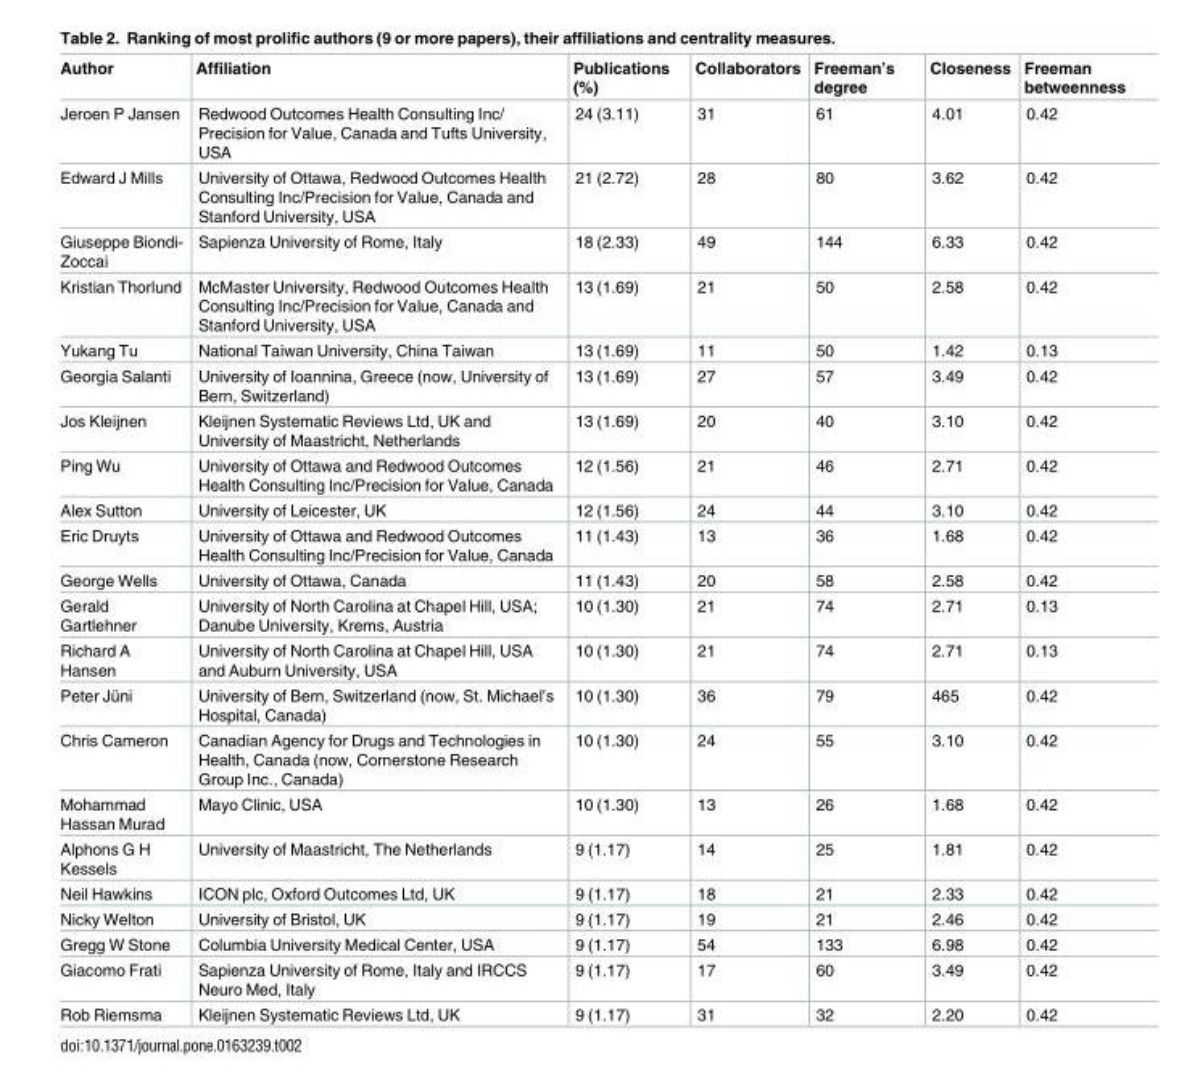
<table><thead><tr><td>Author</td><td>Affiliation</td><td>Publications (%)</td><td>Collaborators</td><td>Freeman’s degree</td><td>Closeness</td><td>Freeman betweenness</td></tr></thead><tbody><tr><td>Jeroen P Jansen</td><td>Redwood Outcomes Health Consulting Inc/ Precision for Value, Canada and Tufts University, USA</td><td>24 (3.11)</td><td>31</td><td>61</td><td>4.01</td><td>0.42</td></tr><tr><td>Edward J Mills</td><td>University of Ottawa, Redwood Outcomes Health Consulting Inc/Precision for Value, Canada and Stanford University, USA</td><td>21 (2.72)</td><td>28</td><td>80</td><td>3.62</td><td>0.42</td></tr><tr><td>Giuseppe Biondi- Zoccai</td><td>Sapienza University of Rome, Italy</td><td>18 (2.33)</td><td>49</td><td>144</td><td>6.33</td><td>0.42</td></tr><tr><td>Kristian Thorlund</td><td>McMaster University, Redwood Outcomes Health Consulting Inc/Precision for Value, Canada and Stanford University, USA</td><td>13 (1.69)</td><td>21</td><td>50</td><td>2.58</td><td>0.42</td></tr><tr><td>Yukang Tu</td><td>National Taiwan University, China Taiwan</td><td>13 (1.69)</td><td>11</td><td>50</td><td>1.42</td><td>0.13</td></tr><tr><td>Georgia Salanti</td><td>University of Ioannina, Greece (now, University of Bern, Switzerland)</td><td>13 (1.69)</td><td>27</td><td>57</td><td>3.49</td><td>0.42</td></tr><tr><td>Jos Kleijnen</td><td>Kleijnen Systematic Reviews Ltd, UK and University of Maastricht, Netherlands</td><td>13 (1.69)</td><td>20</td><td>40</td><td>3.10</td><td>0.42</td></tr><tr><td>Ping Wu</td><td>University of Ottawa and Redwood Outcomes Health Consulting Inc/Precision for Value, Canada</td><td>12 (1.56)</td><td>21</td><td>46</td><td>2.71</td><td>0.42</td></tr><tr><td>Alex Sutton</td><td>University of Leicester, UK</td><td>12 (1.56)</td><td>24</td><td>44</td><td>3.10</td><td>0.42</td></tr><tr><td>Eric Druyts</td><td>University of Ottawa and Redwood Outcomes Health Consulting Inc/Precision for Value, Canada</td><td>11 (1.43)</td><td>13</td><td>36</td><td>1.68</td><td>0.42</td></tr><tr><td>George Wells</td><td>University of Ottawa, Canada</td><td>11 (1.43)</td><td>20</td><td>58</td><td>2.58</td><td>0.42</td></tr><tr><td>Gerald Gartlehner</td><td>University of North Carolina at Chapel Hill, USA; Danube University, Krems, Austria</td><td>10 (1.30)</td><td>21</td><td>74</td><td>2.71</td><td>0.13</td></tr><tr><td>Richard A Hansen</td><td>University of North Carolina at Chapel Hill, USA and Auburn University, USA</td><td>10 (1.30)</td><td>21</td><td>74</td><td>2.71</td><td>0.13</td></tr><tr><td>Peter Ju¨ni</td><td>University of Bern, Switzerland (now, St. Michael’s Hospital, Canada)</td><td>10 (1.30)</td><td>36</td><td>79</td><td>465</td><td>0.42</td></tr><tr><td>Chris Cameron</td><td>Canadian Agency for Drugs and Technologies in Health, Canada (now, Cornerstone Research Group Inc., Canada)</td><td>10 (1.30)</td><td>24</td><td>55</td><td>3.10</td><td>0.42</td></tr><tr><td>Mohammad Hassan Murad</td><td>Mayo Clinic, USA</td><td>10 (1.30)</td><td>13</td><td>26</td><td>1.68</td><td>0.42</td></tr><tr><td>Alphons G H Kessels</td><td>University of Maastricht, The Netherlands</td><td>9 (1.17)</td><td>14</td><td>25</td><td>1.81</td><td>0.42</td></tr><tr><td>Neil Hawkins</td><td>ICON plc, Oxford Outcomes Ltd, UK</td><td>9 (1.17)</td><td>18</td><td>21</td><td>2.33</td><td>0.42</td></tr><tr><td>Nicky Welton</td><td>University of Bristol, UK</td><td>9 (1.17)</td><td>19</td><td>21</td><td>2.46</td><td>0.42</td></tr><tr><td>Gregg W Stone</td><td>Columbia University Medical Center, USA</td><td>9 (1.17)</td><td>54</td><td>133</td><td>6.98</td><td>0.42</td></tr><tr><td>Giacomo Frati</td><td>Sapienza University of Rome, Italy and IRCCS Neuro Med, Italy</td><td>9 (1.17)</td><td>17</td><td>60</td><td>3.49</td><td>0.42</td></tr><tr><td>Rob Riemsma</td><td>Kleijnen Systematic Reviews Ltd, UK</td><td>9 (1.17)</td><td>31</td><td>32</td><td>2.20</td><td>0.42</td></tr></tbody></table>